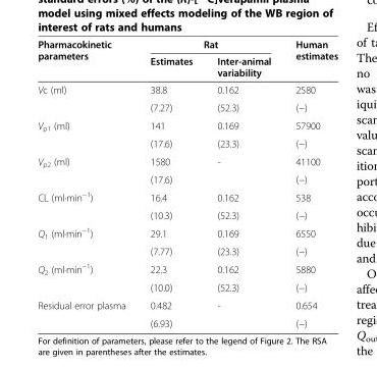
<table><thead><tr><td rowspan="2">Pharmacokinetic parameters</td><td colspan="2">Rat</td><td rowspan="2">Human estimates</td></tr><tr><td>Estimates</td><td>Inter-animal variability</td></tr></thead><tbody><tr><td rowspan="2">Vc (ml)</td><td>38.8</td><td>0.162</td><td>2580</td></tr><tr><td>(7.27)</td><td>(52.3)</td><td>(−)</td></tr><tr><td rowspan="2">V<sub>p1</sub> (ml)</td><td>141</td><td>0.169</td><td>57900</td></tr><tr><td>(17.6)</td><td>(23.3)</td><td>(−)</td></tr><tr><td rowspan="2">V<sub>p2</sub> (ml)</td><td>1580</td><td rowspan="2">-</td><td>41100</td></tr><tr><td>(17.6)</td><td>(−)</td></tr><tr><td rowspan="2">CL (ml·min<sup>−1</sup>)</td><td>16.4</td><td>0.162</td><td>538</td></tr><tr><td>(10.3)</td><td>(52.3)</td><td>(−)</td></tr><tr><td rowspan="2">Q<sub>1</sub> (ml·min<sup>−1</sup>)</td><td>29.1</td><td>0.169</td><td>6550</td></tr><tr><td>(7.77)</td><td>(23.3)</td><td>(−)</td></tr><tr><td rowspan="2">Q<sub>2</sub> (ml·min<sup>−1</sup>)</td><td>22.3</td><td>0.162</td><td>5880</td></tr><tr><td>(10.0)</td><td>(52.3)</td><td>(−)</td></tr><tr><td rowspan="2">Residual error plasma</td><td>0.482</td><td>-</td><td>0.654</td></tr><tr><td>(6.93)</td><td></td><td>(−)</td></tr></tbody></table>